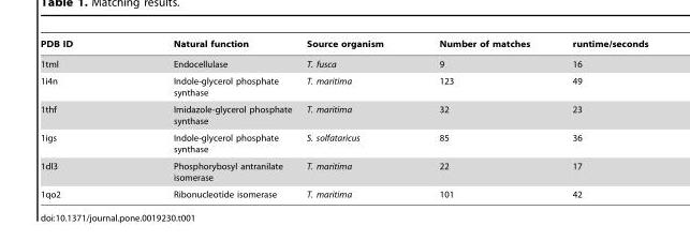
<table><thead><tr><td>PDB ID</td><td>Natural function</td><td>Source organism</td><td>Number of matches</td><td>runtime/seconds</td></tr></thead><tbody><tr><td>1tml</td><td>Endocellulase</td><td>T. fusca</td><td>9</td><td>16</td></tr><tr><td>1i4n</td><td>Indole-glycerol phosphate synthase</td><td>T. maritima</td><td>123</td><td>49</td></tr><tr><td>1thf</td><td>Imidazole-glycerol phosphate synthase</td><td>T. maritima</td><td>32</td><td>23</td></tr><tr><td>1igs</td><td>Indole-glycerol phosphate synthase</td><td>S. solfataricus</td><td>85</td><td>36</td></tr><tr><td>1dl3</td><td>Phosphorybosyl antranilate isomerase</td><td>T. maritima</td><td>22</td><td>17</td></tr><tr><td>1qo2</td><td>Ribonucleotide isomerase</td><td>T. maritima</td><td>101</td><td>42</td></tr></tbody></table>